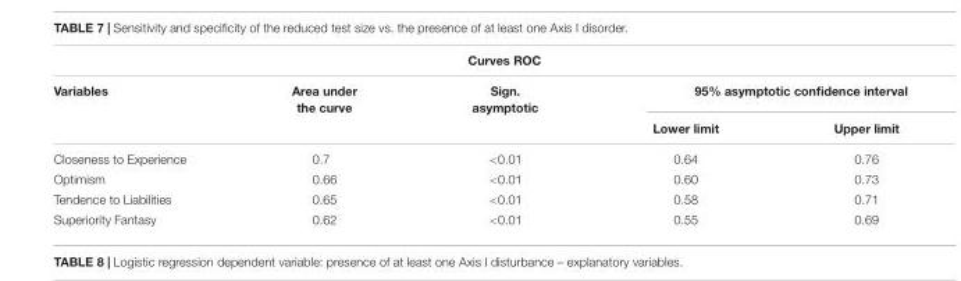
<table><thead><tr><td colspan="5">Curves ROC</td></tr><tr><td rowspan="2">Variables</td><td rowspan="2">Area under the curve</td><td rowspan="2">Sign. asymptotic</td><td colspan="2">95% asymptotic confidence interval</td></tr><tr><td>Lower limit</td><td>Upper limit</td></tr></thead><tbody><tr><td>Closeness to Experience</td><td>0.7</td><td>&lt;0.01</td><td>0.64</td><td>0.76</td></tr><tr><td>Optimism</td><td>0.66</td><td>&lt;0.01</td><td>0.60</td><td>0.73</td></tr><tr><td>Tendence to Liabilities</td><td>0.65</td><td>&lt;0.01</td><td>0.58</td><td>0.71</td></tr><tr><td>Superiority Fantasy</td><td>0.62</td><td>&lt;0.01</td><td>0.55</td><td>0.69</td></tr></tbody></table>